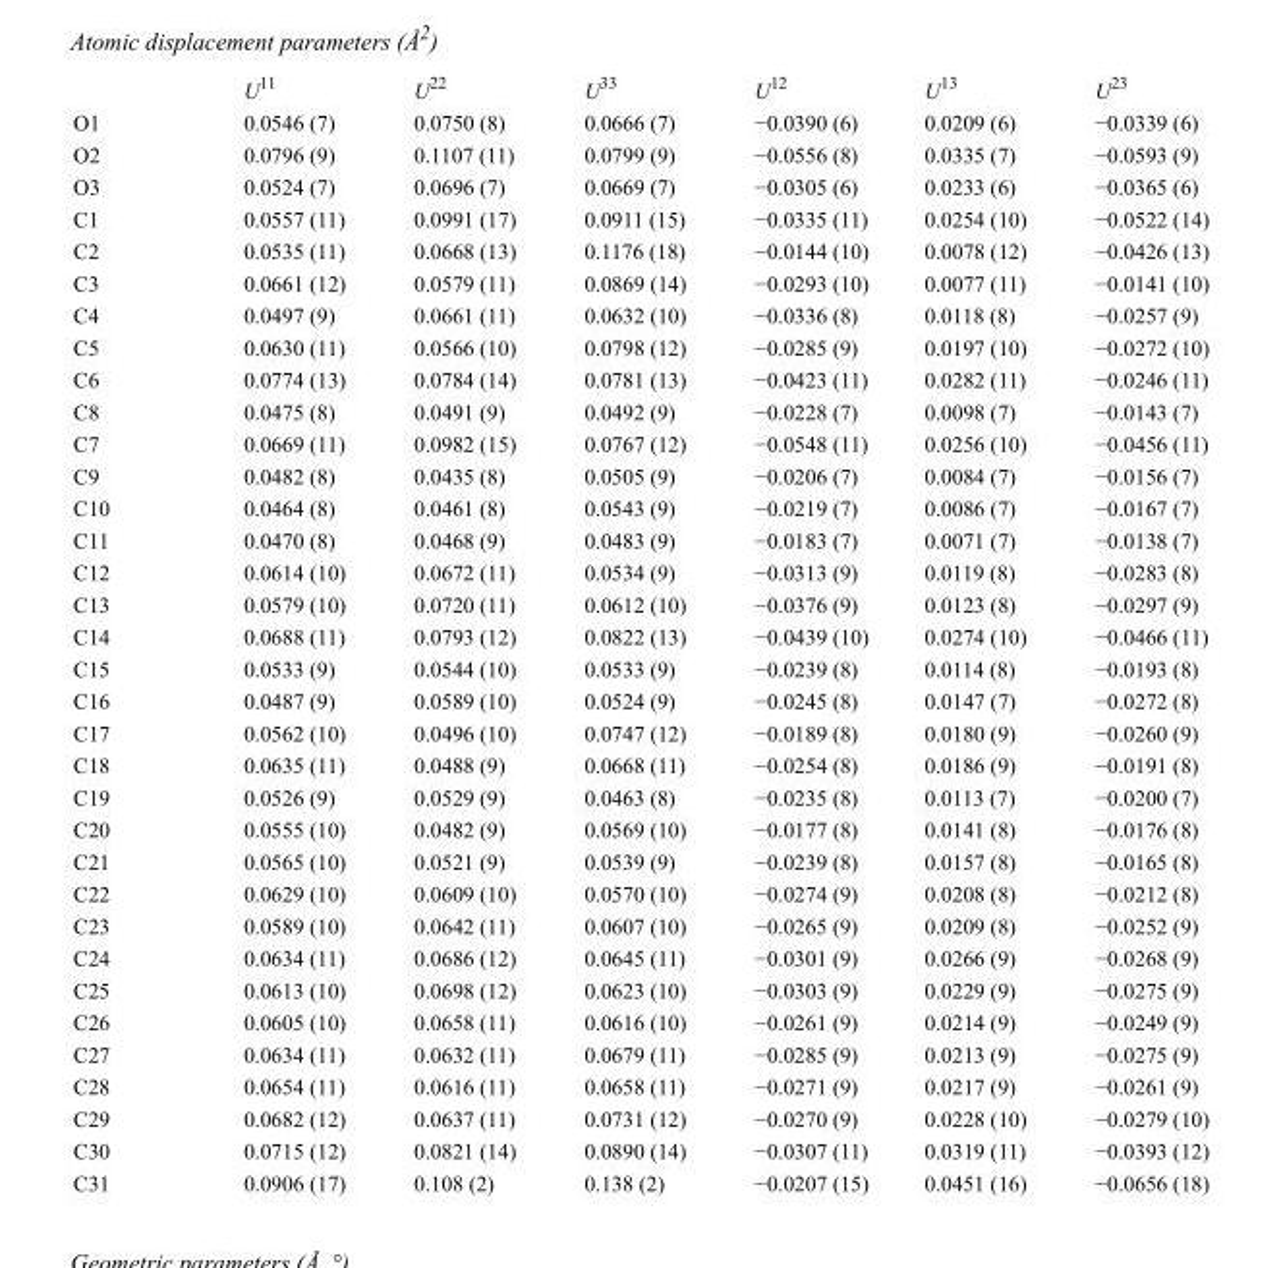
<table><thead><tr><td></td><td>U<sup>11</sup></td><td>U<sup>22</sup></td><td>U<sup>33</sup></td><td>U<sup>12</sup></td><td>U<sup>13</sup></td><td>U<sup>23</sup></td></tr></thead><tbody><tr><td>O1</td><td>0.0546 (7)</td><td>0.0750 (8)</td><td>0.0666 (7)</td><td>−0.0390 (6)</td><td>0.0209 (6)</td><td>−0.0339 (6)</td></tr><tr><td>O2</td><td>0.0796 (9)</td><td>0.1107 (11)</td><td>0.0799 (9)</td><td>−0.0556 (8)</td><td>0.0335 (7)</td><td>−0.0593 (9)</td></tr><tr><td>O3</td><td>0.0524 (7)</td><td>0.0696 (7)</td><td>0.0669 (7)</td><td>−0.0305 (6)</td><td>0.0233 (6)</td><td>−0.0365 (6)</td></tr><tr><td>C1</td><td>0.0557 (11)</td><td>0.0991 (17)</td><td>0.0911 (15)</td><td>−0.0335 (11)</td><td>0.0254 (10)</td><td>−0.0522 (14)</td></tr><tr><td>C2</td><td>0.0535 (11)</td><td>0.0668 (13)</td><td>0.1176 (18)</td><td>−0.0144 (10)</td><td>0.0078 (12)</td><td>−0.0426 (13)</td></tr><tr><td>C3</td><td>0.0661 (12)</td><td>0.0579 (11)</td><td>0.0869 (14)</td><td>−0.0293 (10)</td><td>0.0077 (11)</td><td>−0.0141 (10)</td></tr><tr><td>C4</td><td>0.0497 (9)</td><td>0.0661 (11)</td><td>0.0632 (10)</td><td>−0.0336 (8)</td><td>0.0118 (8)</td><td>−0.0257 (9)</td></tr><tr><td>C5</td><td>0.0630 (11)</td><td>0.0566 (10)</td><td>0.0798 (12)</td><td>−0.0285 (9)</td><td>0.0197 (10)</td><td>−0.0272 (10)</td></tr><tr><td>C6</td><td>0.0774 (13)</td><td>0.0784 (14)</td><td>0.0781 (13)</td><td>−0.0423 (11)</td><td>0.0282 (11)</td><td>−0.0246 (11)</td></tr><tr><td>C8</td><td>0.0475 (8)</td><td>0.0491 (9)</td><td>0.0492 (9)</td><td>−0.0228 (7)</td><td>0.0098 (7)</td><td>−0.0143 (7)</td></tr><tr><td>C7</td><td>0.0669 (11)</td><td>0.0982 (15)</td><td>0.0767 (12)</td><td>−0.0548 (11)</td><td>0.0256 (10)</td><td>−0.0456 (11)</td></tr><tr><td>C9</td><td>0.0482 (8)</td><td>0.0435 (8)</td><td>0.0505 (9)</td><td>−0.0206 (7)</td><td>0.0084 (7)</td><td>−0.0156 (7)</td></tr><tr><td>C10</td><td>0.0464 (8)</td><td>0.0461 (8)</td><td>0.0543 (9)</td><td>−0.0219 (7)</td><td>0.0086 (7)</td><td>−0.0167 (7)</td></tr><tr><td>C11</td><td>0.0470 (8)</td><td>0.0468 (9)</td><td>0.0483 (9)</td><td>−0.0183 (7)</td><td>0.0071 (7)</td><td>−0.0138 (7)</td></tr><tr><td>C12</td><td>0.0614 (10)</td><td>0.0672 (11)</td><td>0.0534 (9)</td><td>−0.0313 (9)</td><td>0.0119 (8)</td><td>−0.0283 (8)</td></tr><tr><td>C13</td><td>0.0579 (10)</td><td>0.0720 (11)</td><td>0.0612 (10)</td><td>−0.0376 (9)</td><td>0.0123 (8)</td><td>−0.0297 (9)</td></tr><tr><td>C14</td><td>0.0688 (11)</td><td>0.0793 (12)</td><td>0.0822 (13)</td><td>−0.0439 (10)</td><td>0.0274 (10)</td><td>−0.0466 (11)</td></tr><tr><td>C15</td><td>0.0533 (9)</td><td>0.0544 (10)</td><td>0.0533 (9)</td><td>−0.0239 (8)</td><td>0.0114 (8)</td><td>−0.0193 (8)</td></tr><tr><td>C16</td><td>0.0487 (9)</td><td>0.0589 (10)</td><td>0.0524 (9)</td><td>−0.0245 (8)</td><td>0.0147 (7)</td><td>−0.0272 (8)</td></tr><tr><td>C17</td><td>0.0562 (10)</td><td>0.0496 (10)</td><td>0.0747 (12)</td><td>−0.0189 (8)</td><td>0.0180 (9)</td><td>−0.0260 (9)</td></tr><tr><td>C18</td><td>0.0635 (11)</td><td>0.0488 (9)</td><td>0.0668 (11)</td><td>−0.0254 (8)</td><td>0.0186 (9)</td><td>−0.0191 (8)</td></tr><tr><td>C19</td><td>0.0526 (9)</td><td>0.0529 (9)</td><td>0.0463 (8)</td><td>−0.0235 (8)</td><td>0.0113 (7)</td><td>−0.0200 (7)</td></tr><tr><td>C20</td><td>0.0555 (10)</td><td>0.0482 (9)</td><td>0.0569 (10)</td><td>−0.0177 (8)</td><td>0.0141 (8)</td><td>−0.0176 (8)</td></tr><tr><td>C21</td><td>0.0565 (10)</td><td>0.0521 (9)</td><td>0.0539 (9)</td><td>−0.0239 (8)</td><td>0.0157 (8)</td><td>−0.0165 (8)</td></tr><tr><td>C22</td><td>0.0629 (10)</td><td>0.0609 (10)</td><td>0.0570 (10)</td><td>−0.0274 (9)</td><td>0.0208 (8)</td><td>−0.0212 (8)</td></tr><tr><td>C23</td><td>0.0589 (10)</td><td>0.0642 (11)</td><td>0.0607 (10)</td><td>−0.0265 (9)</td><td>0.0209 (8)</td><td>−0.0252 (9)</td></tr><tr><td>C24</td><td>0.0634 (11)</td><td>0.0686 (12)</td><td>0.0645 (11)</td><td>−0.0301 (9)</td><td>0.0266 (9)</td><td>−0.0268 (9)</td></tr><tr><td>C25</td><td>0.0613 (10)</td><td>0.0698 (12)</td><td>0.0623 (10)</td><td>−0.0303 (9)</td><td>0.0229 (9)</td><td>−0.0275 (9)</td></tr><tr><td>C26</td><td>0.0605 (10)</td><td>0.0658 (11)</td><td>0.0616 (10)</td><td>−0.0261 (9)</td><td>0.0214 (9)</td><td>−0.0249 (9)</td></tr><tr><td>C27</td><td>0.0634 (11)</td><td>0.0632 (11)</td><td>0.0679 (11)</td><td>−0.0285 (9)</td><td>0.0213 (9)</td><td>−0.0275 (9)</td></tr><tr><td>C28</td><td>0.0654 (11)</td><td>0.0616 (11)</td><td>0.0658 (11)</td><td>−0.0271 (9)</td><td>0.0217 (9)</td><td>−0.0261 (9)</td></tr><tr><td>C29</td><td>0.0682 (12)</td><td>0.0637 (11)</td><td>0.0731 (12)</td><td>−0.0270 (9)</td><td>0.0228 (10)</td><td>−0.0279 (10)</td></tr><tr><td>C30</td><td>0.0715 (12)</td><td>0.0821 (14)</td><td>0.0890 (14)</td><td>−0.0307 (11)</td><td>0.0319 (11)</td><td>−0.0393 (12)</td></tr><tr><td>C31</td><td>0.0906 (17)</td><td>0.108 (2)</td><td>0.138 (2)</td><td>−0.0207 (15)</td><td>0.0451 (16)</td><td>−0.0656 (18)</td></tr></tbody></table>